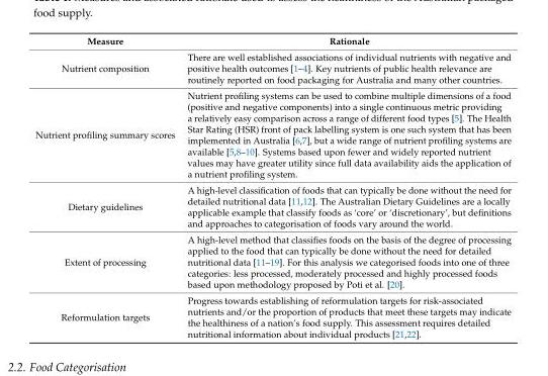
<table><thead><tr><td>Measure</td><td>Rationale</td></tr></thead><tbody><tr><td>Nutrient composition</td><td>There are well established associations of individual nutrients with negative and positive health outcomes [1–4]. Key nutrients of public health relevance are routinely reported on food packaging for Australia and many other countries.</td></tr><tr><td>Nutrient profiling summary scores</td><td>Nutrient profiling systems can be used to combine multiple dimensions of a food (positive and negative components) into a single continuous metric providing a relatively easy comparison across a range of different food types [5]. The Health Star Rating (HSR) front of pack labelling system is one such system that has been implemented in Australia [6,7], but a wide range of nutrient profiling systems are available [5,8–10]. Systems based upon fewer and widely reported nutrient values may have greater utility since full data availability aids the application of a nutrient profiling system.</td></tr><tr><td>Dietary guidelines</td><td>A high-level classification of foods that can typically be done without the need for detailed nutritional data [11,12]. The Australian Dietary Guidelines are a locally applicable example that classify foods as ‘core’ or ‘discretionary’, but definitions and approaches to categorisation of foods vary around the world.</td></tr><tr><td>Extent of processing</td><td>A high-level method that classifies foods on the basis of the degree of processing applied to the food that can typically be done without the need for detailed nutritional data [11–19]. For this analysis we categorised foods into one of three categories: less processed, moderately processed and highly processed foods based upon methodology proposed by Poti et al. [20].</td></tr><tr><td>Reformulation targets</td><td>Progress towards establishing of reformulation targets for risk-associated nutrients and/or the proportion of products that meet these targets may indicate the healthiness of a nation’s food supply. This assessment requires detailed nutritional information about individual products [21,22].</td></tr></tbody></table>